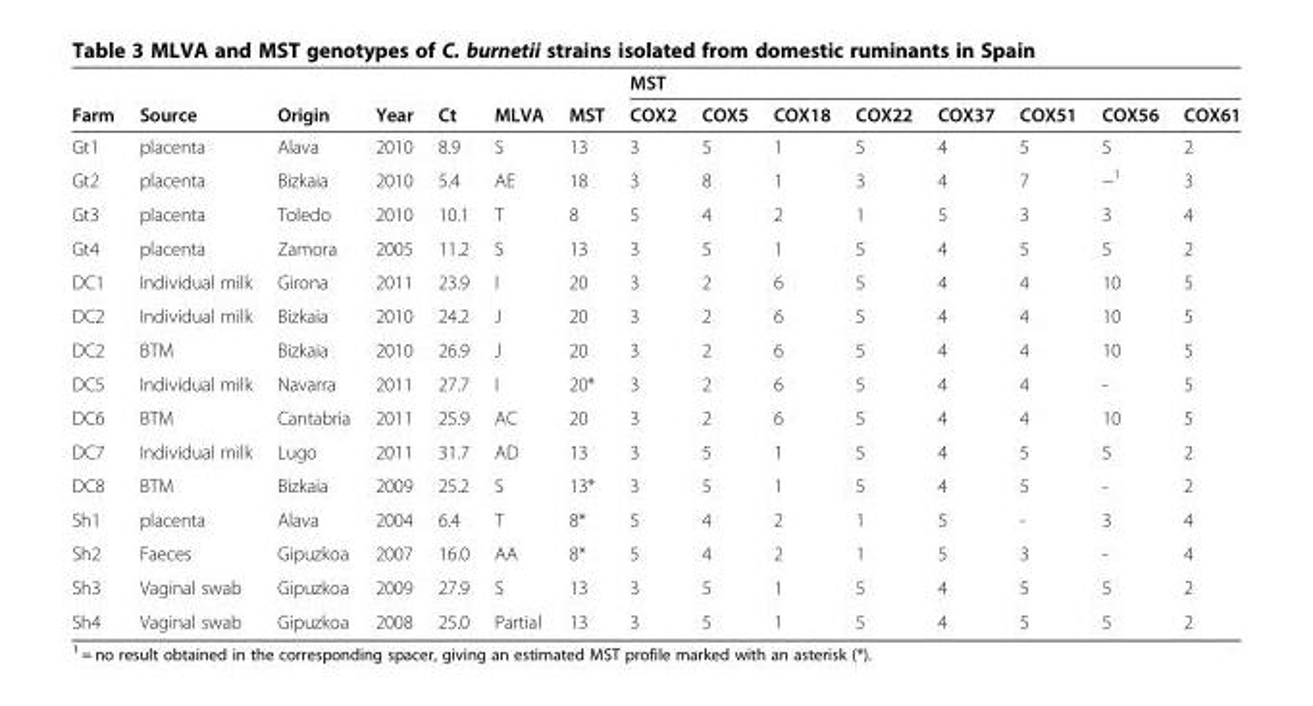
<table><thead><tr><td rowspan="2">Farm</td><td rowspan="2">Source</td><td rowspan="2">Origin</td><td rowspan="2">Year</td><td rowspan="2">Ct</td><td rowspan="2">MLVA</td><td rowspan="2">MST</td><td colspan="8">MST</td></tr><tr><td>COX2</td><td>COX5</td><td>COX18</td><td>COX22</td><td>COX37</td><td>COX51</td><td>COX56</td><td>COX61</td></tr></thead><tbody><tr><td>Gt1</td><td>placenta</td><td>Alava</td><td>2010</td><td>8.9</td><td>S</td><td>13</td><td>3</td><td>5</td><td>1</td><td>5</td><td>4</td><td>5</td><td>5</td><td>2</td></tr><tr><td>Gt2</td><td>placenta</td><td>Bizkaia</td><td>2010</td><td>5.4</td><td>AE</td><td>18</td><td>3</td><td>8</td><td>1</td><td>3</td><td>4</td><td>7</td><td>−<sup>1</sup></td><td>3</td></tr><tr><td>Gt3</td><td>placenta</td><td>Toledo</td><td>2010</td><td>10.1</td><td>T</td><td>8</td><td>5</td><td>4</td><td>2</td><td>1</td><td>5</td><td>3</td><td>3</td><td>4</td></tr><tr><td>Gt4</td><td>placenta</td><td>Zamora</td><td>2005</td><td>11.2</td><td>S</td><td>13</td><td>3</td><td>5</td><td>1</td><td>5</td><td>4</td><td>5</td><td>5</td><td>2</td></tr><tr><td>DC1</td><td>Individual milk</td><td>Girona</td><td>2011</td><td>23.9</td><td>I</td><td>20</td><td>3</td><td>2</td><td>6</td><td>5</td><td>4</td><td>4</td><td>10</td><td>5</td></tr><tr><td>DC2</td><td>Individual milk</td><td>Bizkaia</td><td>2010</td><td>24.2</td><td>J</td><td>20</td><td>3</td><td>2</td><td>6</td><td>5</td><td>4</td><td>4</td><td>10</td><td>5</td></tr><tr><td>DC2</td><td>BTM</td><td>Bizkaia</td><td>2010</td><td>26.9</td><td>J</td><td>20</td><td>3</td><td>2</td><td>6</td><td>5</td><td>4</td><td>4</td><td>10</td><td>5</td></tr><tr><td>DC5</td><td>Individual milk</td><td>Navarra</td><td>2011</td><td>27.7</td><td>I</td><td>20*</td><td>3</td><td>2</td><td>6</td><td>5</td><td>4</td><td>4</td><td>-</td><td>5</td></tr><tr><td>DC6</td><td>BTM</td><td>Cantabria</td><td>2011</td><td>25.9</td><td>AC</td><td>20</td><td>3</td><td>2</td><td>6</td><td>5</td><td>4</td><td>4</td><td>10</td><td>5</td></tr><tr><td>DC7</td><td>Individual milk</td><td>Lugo</td><td>2011</td><td>31.7</td><td>AD</td><td>13</td><td>3</td><td>5</td><td>1</td><td>5</td><td>4</td><td>5</td><td>5</td><td>2</td></tr><tr><td>DC8</td><td>BTM</td><td>Bizkaia</td><td>2009</td><td>25.2</td><td>S</td><td>13*</td><td>3</td><td>5</td><td>1</td><td>5</td><td>4</td><td>5</td><td>-</td><td>2</td></tr><tr><td>Sh1</td><td>placenta</td><td>Alava</td><td>2004</td><td>6.4</td><td>T</td><td>8*</td><td>5</td><td>4</td><td>2</td><td>1</td><td>5</td><td>-</td><td>3</td><td>4</td></tr><tr><td>Sh2</td><td>Faeces</td><td>Gipuzkoa</td><td>2007</td><td>16.0</td><td>AA</td><td>8*</td><td>5</td><td>4</td><td>2</td><td>1</td><td>5</td><td>3</td><td>-</td><td>4</td></tr><tr><td>Sh3</td><td>Vaginal swab</td><td>Gipuzkoa</td><td>2009</td><td>27.9</td><td>S</td><td>13</td><td>3</td><td>5</td><td>1</td><td>5</td><td>4</td><td>5</td><td>5</td><td>2</td></tr><tr><td>Sh4</td><td>Vaginal swab</td><td>Gipuzkoa</td><td>2008</td><td>25.0</td><td>Partial</td><td>13</td><td>3</td><td>5</td><td>1</td><td>5</td><td>4</td><td>5</td><td>5</td><td>2</td></tr></tbody></table>